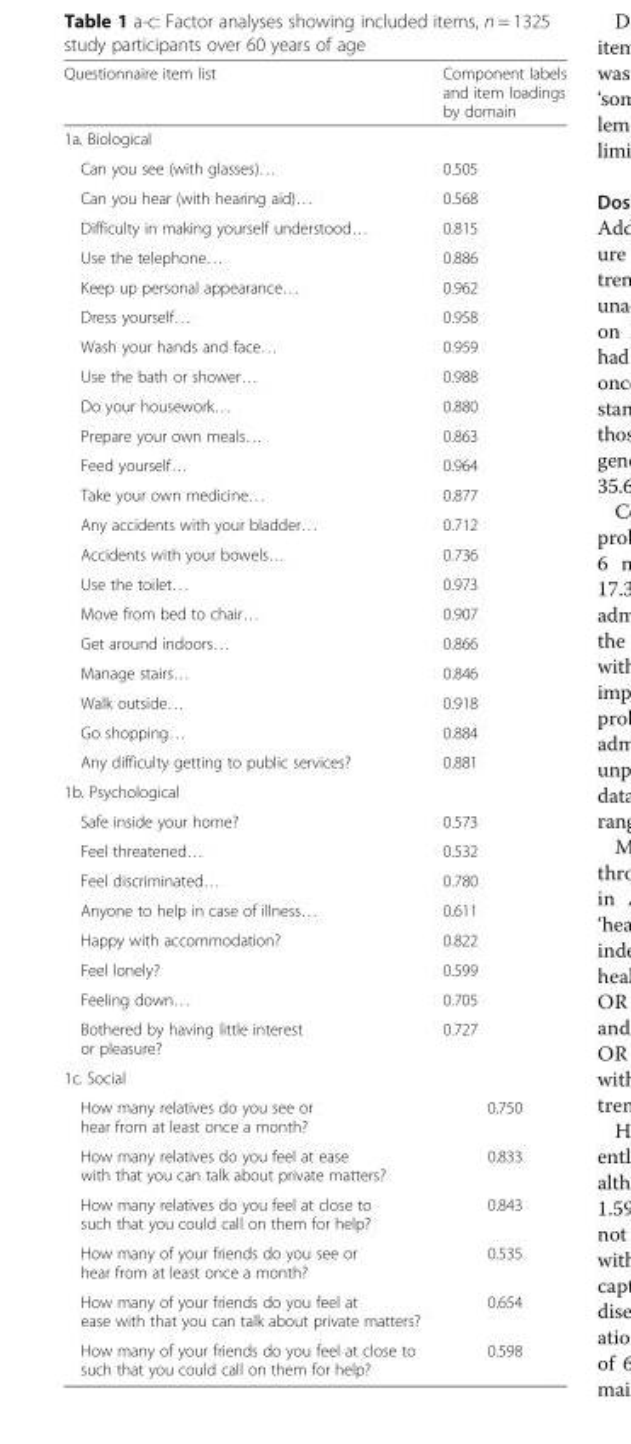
<table><thead><tr><td>Questionnaire item list</td><td>Component labels and item loadings by domain</td></tr></thead><tbody><tr><td colspan="2">1a. Biological</td></tr><tr><td>Can you see (with glasses)…</td><td>0.505</td></tr><tr><td>Can you hear (with hearing aid)…</td><td>0.568</td></tr><tr><td>Difficulty in making yourself understood…</td><td>0.815</td></tr><tr><td>Use the telephone…</td><td>0.886</td></tr><tr><td>Keep up personal appearance…</td><td>0.962</td></tr><tr><td>Dress yourself…</td><td>0.958</td></tr><tr><td>Wash your hands and face…</td><td>0.959</td></tr><tr><td>Use the bath or shower…</td><td>0.988</td></tr><tr><td>Do your housework…</td><td>0.880</td></tr><tr><td>Prepare your own meals…</td><td>0.863</td></tr><tr><td>Feed yourself…</td><td>0.964</td></tr><tr><td>Take your own medicine…</td><td>0.877</td></tr><tr><td>Any accidents with your bladder…</td><td>0.712</td></tr><tr><td>Accidents with your bowels…</td><td>0.736</td></tr><tr><td>Use the toilet…</td><td>0.973</td></tr><tr><td>Move from bed to chair…</td><td>0.907</td></tr><tr><td>Get around indoors…</td><td>0.866</td></tr><tr><td>Manage stairs…</td><td>0.846</td></tr><tr><td>Walk outside…</td><td>0.918</td></tr><tr><td>Go shopping…</td><td>0.884</td></tr><tr><td>Any difficulty getting to public services?</td><td>0.881</td></tr><tr><td colspan="2">1b. Psychological</td></tr><tr><td>Safe inside your home?</td><td>0.573</td></tr><tr><td>Feel threatened…</td><td>0.532</td></tr><tr><td>Feel discriminated…</td><td>0.780</td></tr><tr><td>Anyone to help in case of illness…</td><td>0.611</td></tr><tr><td>Happy with accommodation?</td><td>0.822</td></tr><tr><td>Feel lonely?</td><td>0.599</td></tr><tr><td>Feeling down…</td><td>0.705</td></tr><tr><td>Bothered by having little interest or pleasure?</td><td>0.727</td></tr><tr><td colspan="2">1c. Social</td></tr><tr><td>How many relatives do you see or hear from at least once a month?</td><td>0.750</td></tr><tr><td>How many relatives do you feel at ease with that you can talk about private matters?</td><td>0.833</td></tr><tr><td>How many relatives do you feel at close to such that you could call on them for help?</td><td>0.843</td></tr><tr><td>How many of your friends do you see or hear from at least once a month?</td><td>0.535</td></tr><tr><td>How many of your friends do you feel at ease with that you can talk about private matters?</td><td>0.654</td></tr><tr><td>How many of your friends do you feel at close to such that you could call on them for help?</td><td>0.598</td></tr></tbody></table>